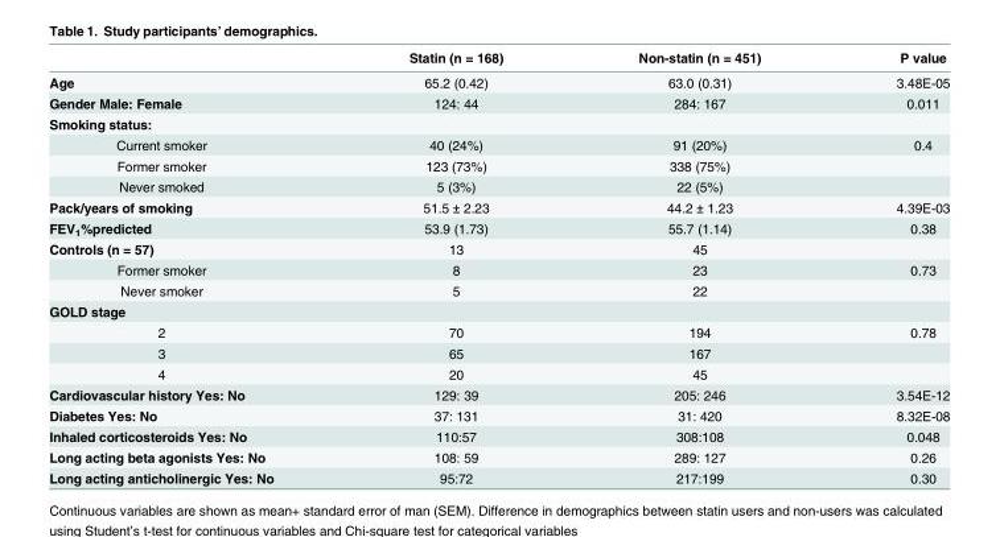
<table><thead><tr><td></td><td>Statin (n = 168)</td><td>Non-statin (n = 451)</td><td>P value</td></tr></thead><tbody><tr><td>Age</td><td>65.2 (0.42)</td><td>63.0 (0.31)</td><td>3.48E-05</td></tr><tr><td>Gender Male: Female</td><td>124: 44</td><td>284: 167</td><td>0.011</td></tr><tr><td colspan="4">Smoking status:</td></tr><tr><td>Current smoker</td><td>40 (24%)</td><td>91 (20%)</td><td>0.4</td></tr><tr><td>Former smoker</td><td>123 (73%)</td><td>338 (75%)</td><td></td></tr><tr><td>Never smoked</td><td>5 (3%)</td><td>22 (5%)</td><td></td></tr><tr><td>Pack/years of smoking</td><td>51.5 ± 2.23</td><td>44.2 ± 1.23</td><td>4.39E-03</td></tr><tr><td>FEV<sub>1</sub>%predicted</td><td>53.9 (1.73)</td><td>55.7 (1.14)</td><td>0.38</td></tr><tr><td>Controls (n = 57)</td><td>13</td><td>45</td><td></td></tr><tr><td>Former smoker</td><td>8</td><td>23</td><td>0.73</td></tr><tr><td>Never smoker</td><td>5</td><td>22</td><td></td></tr><tr><td colspan="4">GOLD stage</td></tr><tr><td>2</td><td>70</td><td>194</td><td>0.78</td></tr><tr><td>3</td><td>65</td><td>167</td><td></td></tr><tr><td>4</td><td>20</td><td>45</td><td></td></tr><tr><td>Cardiovascular history Yes: No</td><td>129: 39</td><td>205: 246</td><td>3.54E-12</td></tr><tr><td>Diabetes Yes: No</td><td>37: 131</td><td>31: 420</td><td>8.32E-08</td></tr><tr><td>Inhaled corticosteroids Yes: No</td><td>110:57</td><td>308:108</td><td>0.048</td></tr><tr><td>Long acting beta agonists Yes: No</td><td>108: 59</td><td>289: 127</td><td>0.26</td></tr><tr><td>Long acting anticholinergic Yes: No</td><td>95:72</td><td>217:199</td><td>0.30</td></tr></tbody></table>